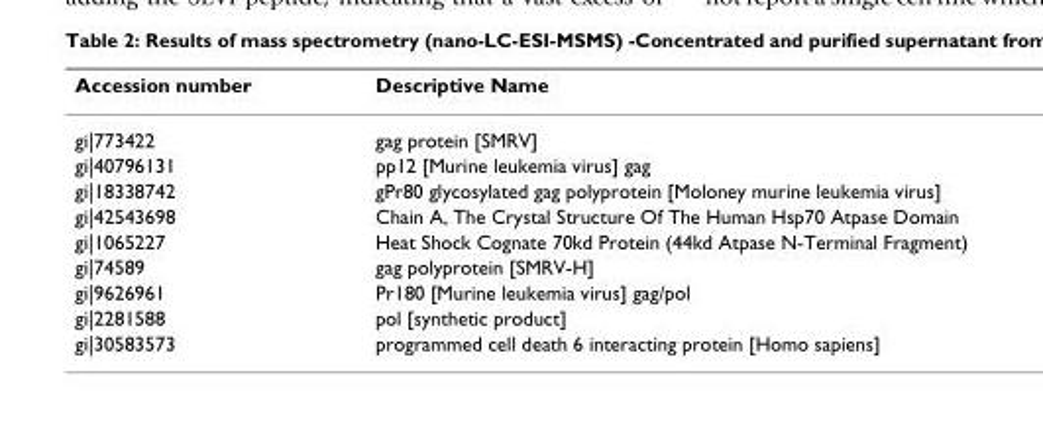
<table><thead><tr><td>Accession number</td><td>Descriptive Name</td></tr></thead><tbody><tr><td>gi|773422</td><td>gag protein [SMRV]</td></tr><tr><td>gi|40796131</td><td>pp12 [Murine leukemia virus] gag</td></tr><tr><td>gi|18338742</td><td>gPr80 glycosylated gag polyprotein [Moloney murine leukemia virus]</td></tr><tr><td>gi|42543698</td><td>Chain A, The Crystal Structure Of The Human Hsp70 Atpase Domain</td></tr><tr><td>gi|1065227</td><td>Heat Shock Cognate 70kd Protein (44kd Atpase N-Terminal Fragment)</td></tr><tr><td>gi|74589</td><td>gag polyprotein [SMRV-H]</td></tr><tr><td>gi|9626961</td><td>Pr180 [Murine leukemia virus] gag/pol</td></tr><tr><td>gi|2281588</td><td>pol [synthetic product]</td></tr><tr><td>gi|30583573</td><td>programmed cell death 6 interacting protein [Homo sapiens]</td></tr></tbody></table>